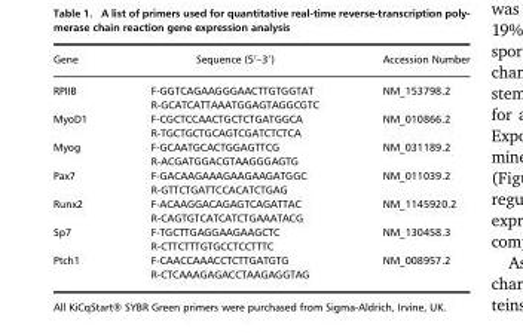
<table><thead><tr><td>Gene</td><td>Sequence (5′–3′)</td><td>Accession Number</td></tr></thead><tbody><tr><td rowspan="2">RPIIB</td><td>F-GGTCAGAAGGGAACTTGTGGTAT</td><td rowspan="2">NM_153798.2</td></tr><tr><td>R-GCATCATTAAATGGAGTAGGCGTC</td></tr><tr><td rowspan="2">MyoD1</td><td>F-CGCTCCAACTGCTCTGATGGCA</td><td rowspan="2">NM_010866.2</td></tr><tr><td>R-TGCTGCTGCAGTCGATCTCTCA</td></tr><tr><td rowspan="2">Myog</td><td>F-GCAATGCACTGGAGTTCG</td><td rowspan="2">NM_031189.2</td></tr><tr><td>R-ACGATGGACGTAAGGGAGTG</td></tr><tr><td rowspan="2">Pax7</td><td>F-GACAAGAAAGAAGAAGATGGC</td><td rowspan="2">NM_011039.2</td></tr><tr><td>R-GTTCTGATTCCACATCTGAG</td></tr><tr><td rowspan="2">Runx2</td><td>F-ACAAGGACAGAGTCAGATTAC</td><td rowspan="2">NM_1145920.2</td></tr><tr><td>R-CAGTGTCATCATCTGAAATACG</td></tr><tr><td rowspan="2">Sp7</td><td>F-TGCTTGAGGAAGAAGCTC</td><td rowspan="2">NM_130458.3</td></tr><tr><td>R-CTTCTTTGTGCCTCCTTTC</td></tr><tr><td rowspan="2">Ptch1</td><td>F-CAACCAAACCTCTTGATGTG</td><td rowspan="2">NM_008957.2</td></tr><tr><td>R-CTCAAAGAGACCTAAGAGGTAG</td></tr></tbody></table>